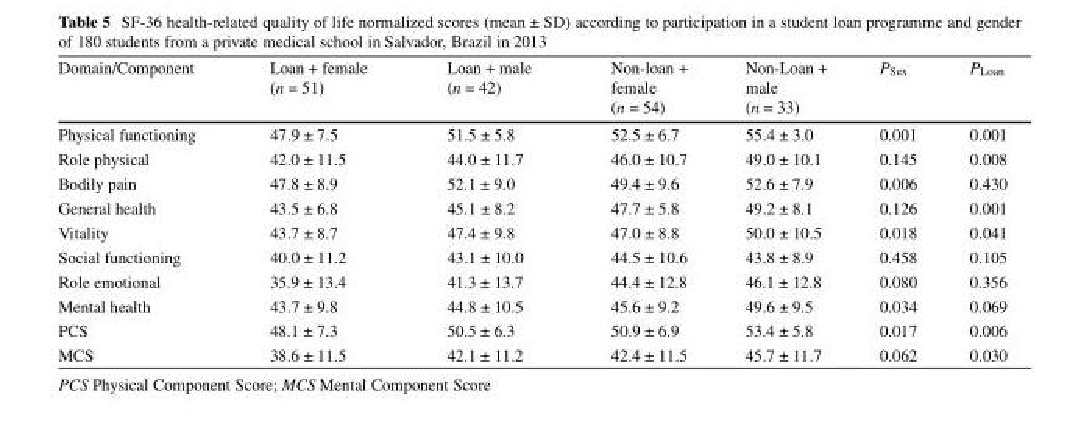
<table><thead><tr><td>Domain/Component</td><td>Loan + female (n = 51)</td><td>Loan + male (n = 42)</td><td>Non-loan + female (n = 54)</td><td>Non-Loan + male (n = 33)</td><td>P<sub>Sex</sub></td><td>P<sub>Loan</sub></td></tr></thead><tbody><tr><td>Physical functioning</td><td>47.9 ± 7.5</td><td>51.5 ± 5.8</td><td>52.5 ± 6.7</td><td>55.4 ± 3.0</td><td>0.001</td><td>0.001</td></tr><tr><td>Role physical</td><td>42.0 ± 11.5</td><td>44.0 ± 11.7</td><td>46.0 ± 10.7</td><td>49.0 ± 10.1</td><td>0.145</td><td>0.008</td></tr><tr><td>Bodily pain</td><td>47.8 ± 8.9</td><td>52.1 ± 9.0</td><td>49.4 ± 9.6</td><td>52.6 ± 7.9</td><td>0.006</td><td>0.430</td></tr><tr><td>General health</td><td>43.5 ± 6.8</td><td>45.1 ± 8.2</td><td>47.7 ± 5.8</td><td>49.2 ± 8.1</td><td>0.126</td><td>0.001</td></tr><tr><td>Vitality</td><td>43.7 ± 8.7</td><td>47.4 ± 9.8</td><td>47.0 ± 8.8</td><td>50.0 ± 10.5</td><td>0.018</td><td>0.041</td></tr><tr><td>Social functioning</td><td>40.0 ± 11.2</td><td>43.1 ± 10.0</td><td>44.5 ± 10.6</td><td>43.8 ± 8.9</td><td>0.458</td><td>0.105</td></tr><tr><td>Role emotional</td><td>35.9 ± 13.4</td><td>41.3 ± 13.7</td><td>44.4 ± 12.8</td><td>46.1 ± 12.8</td><td>0.080</td><td>0.356</td></tr><tr><td>Mental health</td><td>43.7 ± 9.8</td><td>44.8 ± 10.5</td><td>45.6 ± 9.2</td><td>49.6 ± 9.5</td><td>0.034</td><td>0.069</td></tr><tr><td>PCS</td><td>48.1 ± 7.3</td><td>50.5 ± 6.3</td><td>50.9 ± 6.9</td><td>53.4 ± 5.8</td><td>0.017</td><td>0.006</td></tr><tr><td>MCS</td><td>38.6 ± 11.5</td><td>42.1 ± 11.2</td><td>42.4 ± 11.5</td><td>45.7 ± 11.7</td><td>0.062</td><td>0.030</td></tr></tbody></table>